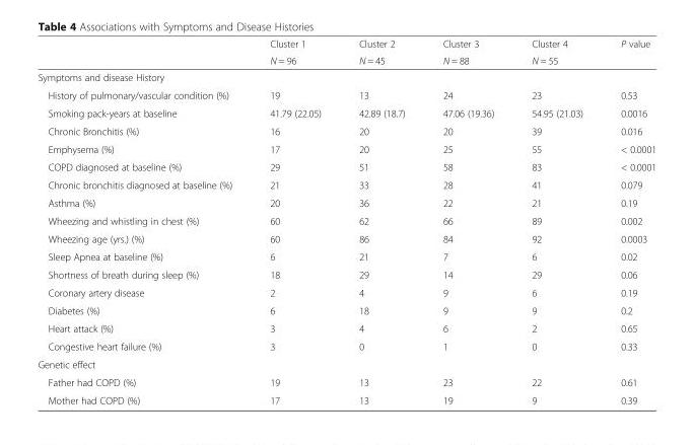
<table><thead><tr><td rowspan="2"></td><td rowspan="2">Cluster 1 N = 96</td><td rowspan="2">Cluster 2 N = 45</td><td rowspan="2">Cluster 3 N = 88</td><td rowspan="2">Cluster 4 N = 55</td><td rowspan="2">P value</td></tr><tr></tr></thead><tbody><tr><td colspan="6">Symptoms and disease History</td></tr><tr><td>History of pulmonary/vascular condition (%)</td><td>19</td><td>13</td><td>24</td><td>23</td><td>0.53</td></tr><tr><td>Smoking pack-years at baseline</td><td>41.79 (22.05)</td><td>42.89 (18.7)</td><td>47.06 (19.36)</td><td>54.95 (21.03)</td><td>0.0016</td></tr><tr><td>Chronic Bronchitis (%)</td><td>16</td><td>20</td><td>20</td><td>39</td><td>0.016</td></tr><tr><td>Emphysema (%)</td><td>17</td><td>20</td><td>25</td><td>55</td><td>&lt; 0.0001</td></tr><tr><td>COPD diagnosed at baseline (%)</td><td>29</td><td>51</td><td>58</td><td>83</td><td>&lt; 0.0001</td></tr><tr><td>Chronic bronchitis diagnosed at baseline (%)</td><td>21</td><td>33</td><td>28</td><td>41</td><td>0.079</td></tr><tr><td>Asthma (%)</td><td>20</td><td>36</td><td>22</td><td>21</td><td>0.19</td></tr><tr><td>Wheezing and whistling in chest (%)</td><td>60</td><td>62</td><td>66</td><td>89</td><td>0.002</td></tr><tr><td>Wheezing age (yrs.) (%)</td><td>60</td><td>86</td><td>84</td><td>92</td><td>0.0003</td></tr><tr><td>Sleep Apnea at baseline (%)</td><td>6</td><td>21</td><td>7</td><td>6</td><td>0.02</td></tr><tr><td>Shortness of breath during sleep (%)</td><td>18</td><td>29</td><td>14</td><td>29</td><td>0.06</td></tr><tr><td>Coronary artery disease</td><td>2</td><td>4</td><td>9</td><td>6</td><td>0.19</td></tr><tr><td>Diabetes (%)</td><td>6</td><td>18</td><td>9</td><td>9</td><td>0.2</td></tr><tr><td>Heart attack (%)</td><td>3</td><td>4</td><td>6</td><td>2</td><td>0.65</td></tr><tr><td>Congestive heart failure (%)</td><td>3</td><td>0</td><td>1</td><td>0</td><td>0.33</td></tr><tr><td colspan="6">Genetic effect</td></tr><tr><td>Father had COPD (%)</td><td>19</td><td>13</td><td>23</td><td>22</td><td>0.61</td></tr><tr><td>Mother had COPD (%)</td><td>17</td><td>13</td><td>19</td><td>9</td><td>0.39</td></tr></tbody></table>